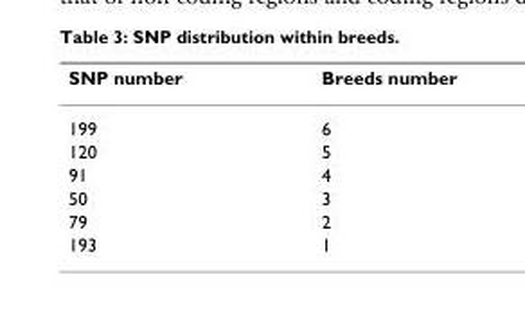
<table><thead><tr><td>SNP number</td><td>Breeds number</td></tr></thead><tbody><tr><td>199</td><td>6</td></tr><tr><td>120</td><td>5</td></tr><tr><td>91</td><td>4</td></tr><tr><td>50</td><td>3</td></tr><tr><td>79</td><td>2</td></tr><tr><td>193</td><td>1</td></tr></tbody></table>